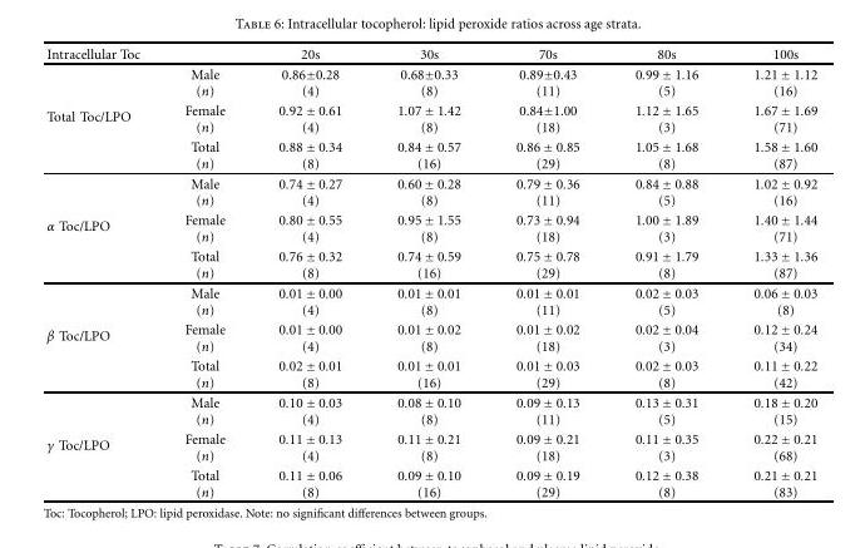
<table><thead><tr><td>Intracellular Toc</td><td></td><td>20s</td><td>30s</td><td>70s</td><td>80s</td><td>100s</td></tr></thead><tbody><tr><td rowspan="3">Total Toc/LPO</td><td>Male (n)</td><td>0.86±0.28 (4)</td><td>0.68±0.33 (8)</td><td>0.89±0.43 (11)</td><td>0.99 ± 1.16 (5)</td><td>1.21 ± 1.12 (16)</td></tr><tr><td>Female (n)</td><td>0.92 ± 0.61 (4)</td><td>1.07 ± 1.42 (8)</td><td>0.84±1.00 (18)</td><td>1.12 ± 1.65 (3)</td><td>1.67 ± 1.69 (71)</td></tr><tr><td>Total (n)</td><td>0.88 ± 0.34 (8)</td><td>0.84 ± 0.57 (16)</td><td>0.86 ± 0.85 (29)</td><td>1.05 ± 1.68 (8)</td><td>1.58 ± 1.60 (87)</td></tr><tr><td rowspan="3">α Toc/LPO</td><td>Male (n)</td><td>0.74 ± 0.27 (4)</td><td>0.60 ± 0.28 (8)</td><td>0.79 ± 0.36 (11)</td><td>0.84 ± 0.88 (5)</td><td>1.02 ± 0.92 (16)</td></tr><tr><td>Female (n)</td><td>0.80 ± 0.55 (4)</td><td>0.95 ± 1.55 (8)</td><td>0.73 ± 0.94 (18)</td><td>1.00 ± 1.89 (3)</td><td>1.40 ± 1.44 (71)</td></tr><tr><td>Total (n)</td><td>0.76 ± 0.32 (8)</td><td>0.74 ± 0.59 (16)</td><td>0.75 ± 0.78 (29)</td><td>0.91 ± 1.79 (8)</td><td>1.33 ± 1.36 (87)</td></tr><tr><td rowspan="3">β Toc/LPO</td><td>Male (n)</td><td>0.01 ± 0.00 (4)</td><td>0.01 ± 0.01 (8)</td><td>0.01 ± 0.01 (11)</td><td>0.02 ± 0.03 (5)</td><td>0.06 ± 0.03 (8)</td></tr><tr><td>Female (n)</td><td>0.01 ± 0.00 (4)</td><td>0.01 ± 0.02 (8)</td><td>0.01 ± 0.02 (18)</td><td>0.02 ± 0.04 (3)</td><td>0.12 ± 0.24 (34)</td></tr><tr><td>Total (n)</td><td>0.02 ± 0.01 (8)</td><td>0.01 ± 0.01 (16)</td><td>0.01 ± 0.03 (29)</td><td>0.02 ± 0.03 (8)</td><td>0.11 ± 0.22 (42)</td></tr><tr><td rowspan="3">γ Toc/LPO</td><td>Male (n)</td><td>0.10 ± 0.03 (4)</td><td>0.08 ± 0.10 (8)</td><td>0.09 ± 0.13 (11)</td><td>0.13 ± 0.31 (5)</td><td>0.18 ± 0.20 (15)</td></tr><tr><td>Female (n)</td><td>0.11 ± 0.13 (4)</td><td>0.11 ± 0.21 (8)</td><td>0.09 ± 0.21 (18)</td><td>0.11 ± 0.35 (3)</td><td>0.22 ± 0.21 (68)</td></tr><tr><td>Total (n)</td><td>0.11 ± 0.06 (8)</td><td>0.09 ± 0.10 (16)</td><td>0.09 ± 0.19 (29)</td><td>0.12 ± 0.38 (8)</td><td>0.21 ± 0.21 (83)</td></tr></tbody></table>